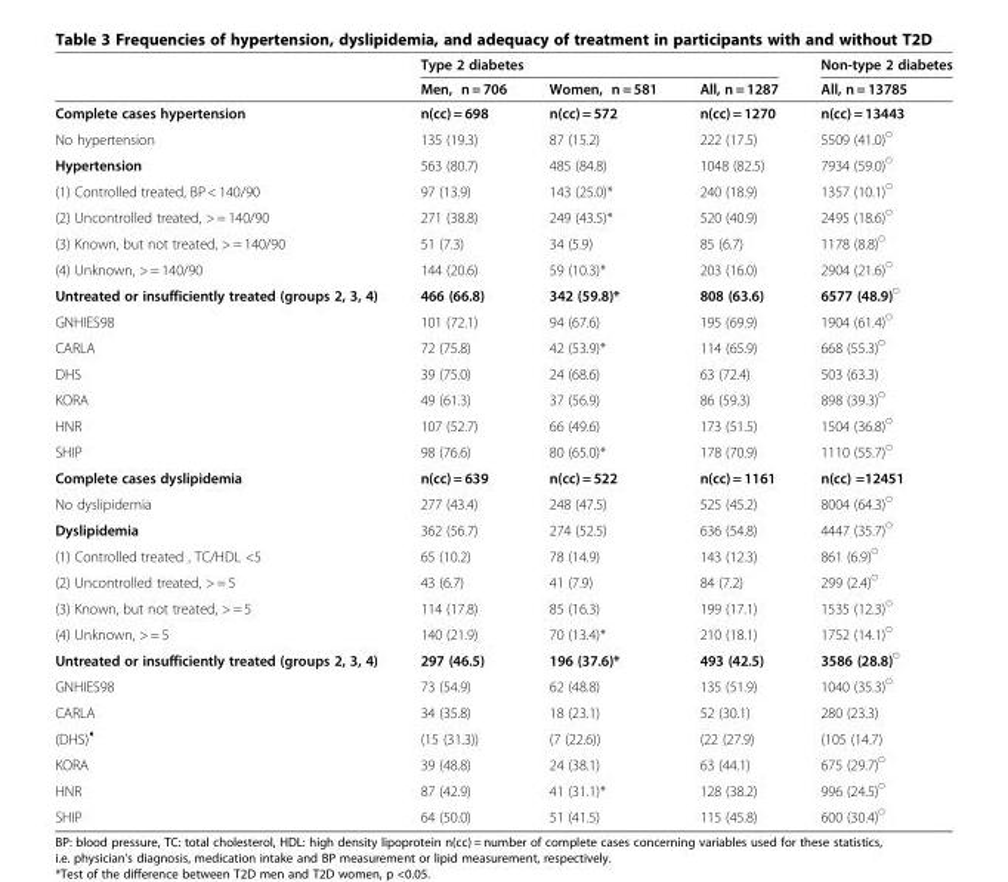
<table><thead><tr><td rowspan="2"></td><td colspan="3">Type 2 diabetes</td><td rowspan="2">Non-type 2 diabetes All, n = 13785</td></tr><tr><td>Men, n = 706</td><td>Women, n = 581</td><td>All, n = 1287</td></tr></thead><tbody><tr><td>Complete cases hypertension</td><td>n(cc) = 698</td><td>n(cc) = 572</td><td>n(cc) = 1270</td><td>n(cc) = 13443</td></tr><tr><td>No hypertension</td><td>135 (19.3)</td><td>87 (15.2)</td><td>222 (17.5)</td><td>5509 (41.0)<sup>◯</sup></td></tr><tr><td>Hypertension</td><td>563 (80.7)</td><td>485 (84.8)</td><td>1048 (82.5)</td><td>7934 (59.0)<sup>◯</sup></td></tr><tr><td>(1) Controlled treated, BP &lt; 140/90</td><td>97 (13.9)</td><td>143 (25.0)*</td><td>240 (18.9)</td><td>1357 (10.1)<sup>◯</sup></td></tr><tr><td>(2) Uncontrolled treated, &gt; = 140/90</td><td>271 (38.8)</td><td>249 (43.5)*</td><td>520 (40.9)</td><td>2495 (18.6)<sup>◯</sup></td></tr><tr><td>(3) Known, but not treated, &gt; = 140/90</td><td>51 (7.3)</td><td>34 (5.9)</td><td>85 (6.7)</td><td>1178 (8.8)<sup>◯</sup></td></tr><tr><td>(4) Unknown, &gt; = 140/90</td><td>144 (20.6)</td><td>59 (10.3)*</td><td>203 (16.0)</td><td>2904 (21.6)<sup>◯</sup></td></tr><tr><td>Untreated or insufficiently treated (groups 2, 3, 4)</td><td>466 (66.8)</td><td>342 (59.8)*</td><td>808 (63.6)</td><td>6577 (48.9)<sup>◯</sup></td></tr><tr><td>GNHIES98</td><td>101 (72.1)</td><td>94 (67.6)</td><td>195 (69.9)</td><td>1904 (61.4)<sup>◯</sup></td></tr><tr><td>CARLA</td><td>72 (75.8)</td><td>42 (53.9)*</td><td>114 (65.9)</td><td>668 (55.3)<sup>◯</sup></td></tr><tr><td>DHS</td><td>39 (75.0)</td><td>24 (68.6)</td><td>63 (72.4)</td><td>503 (63.3)</td></tr><tr><td>KORA</td><td>49 (61.3)</td><td>37 (56.9)</td><td>86 (59.3)</td><td>898 (39.3)<sup>◯</sup></td></tr><tr><td>HNR</td><td>107 (52.7)</td><td>66 (49.6)</td><td>173 (51.5)</td><td>1504 (36.8)<sup>◯</sup></td></tr><tr><td>SHIP</td><td>98 (76.6)</td><td>80 (65.0)*</td><td>178 (70.9)</td><td>1110 (55.7)<sup>◯</sup></td></tr><tr><td>Complete cases dyslipidemia</td><td>n(cc) = 639</td><td>n(cc) = 522</td><td>n(cc) = 1161</td><td>n(cc) =12451</td></tr><tr><td>No dyslipidemia</td><td>277 (43.4)</td><td>248 (47.5)</td><td>525 (45.2)</td><td>8004 (64.3)<sup>◯</sup></td></tr><tr><td>Dyslipidemia</td><td>362 (56.7)</td><td>274 (52.5)</td><td>636 (54.8)</td><td>4447 (35.7)<sup>◯</sup></td></tr><tr><td>(1) Controlled treated , TC/HDL &lt;5</td><td>65 (10.2)</td><td>78 (14.9)</td><td>143 (12.3)</td><td>861 (6.9)<sup>◯</sup></td></tr><tr><td>(2) Uncontrolled treated, &gt; = 5</td><td>43 (6.7)</td><td>41 (7.9)</td><td>84 (7.2)</td><td>299 (2.4)<sup>◯</sup></td></tr><tr><td>(3) Known, but not treated, &gt; = 5</td><td>114 (17.8)</td><td>85 (16.3)</td><td>199 (17.1)</td><td>1535 (12.3)<sup>◯</sup></td></tr><tr><td>(4) Unknown, &gt; = 5</td><td>140 (21.9)</td><td>70 (13.4)*</td><td>210 (18.1)</td><td>1752 (14.1)<sup>◯</sup></td></tr><tr><td>Untreated or insufficiently treated (groups 2, 3, 4)</td><td>297 (46.5)</td><td>196 (37.6)*</td><td>493 (42.5)</td><td>3586 (28.8)<sup>◯</sup></td></tr><tr><td>GNHIES98</td><td>73 (54.9)</td><td>62 (48.8)</td><td>135 (51.9)</td><td>1040 (35.3)<sup>◯</sup></td></tr><tr><td>CARLA</td><td>34 (35.8)</td><td>18 (23.1)</td><td>52 (30.1)</td><td>280 (23.3)</td></tr><tr><td>(DHS)<sup>◖</sup></td><td>(15 (31.3))</td><td>(7 (22.6))</td><td>(22 (27.9)</td><td>(105 (14.7)</td></tr><tr><td>KORA</td><td>39 (48.8)</td><td>24 (38.1)</td><td>63 (44.1)</td><td>675 (29.7)<sup>◯</sup></td></tr><tr><td>HNR</td><td>87 (42.9)</td><td>41 (31.1)*</td><td>128 (38.2)</td><td>996 (24.5)<sup>◯</sup></td></tr><tr><td>SHIP</td><td>64 (50.0)</td><td>51 (41.5)</td><td>115 (45.8)</td><td>600 (30.4)<sup>◯</sup></td></tr></tbody></table>